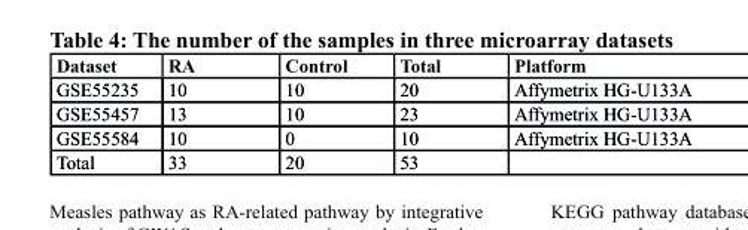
<table><thead><tr><td>Dataset</td><td>rA</td><td>control</td><td>total</td><td>Platform</td></tr></thead><tbody><tr><td>GSE55235</td><td>10</td><td>10</td><td>20</td><td>Affymetrix HG-U133A</td></tr><tr><td>GSE55457</td><td>13</td><td>10</td><td>23</td><td>Affymetrix HG-U133A</td></tr><tr><td>GSE55584</td><td>10</td><td>0</td><td>10</td><td>Affymetrix HG-U133A</td></tr><tr><td>Total</td><td>33</td><td>20</td><td>53</td><td></td></tr></tbody></table>